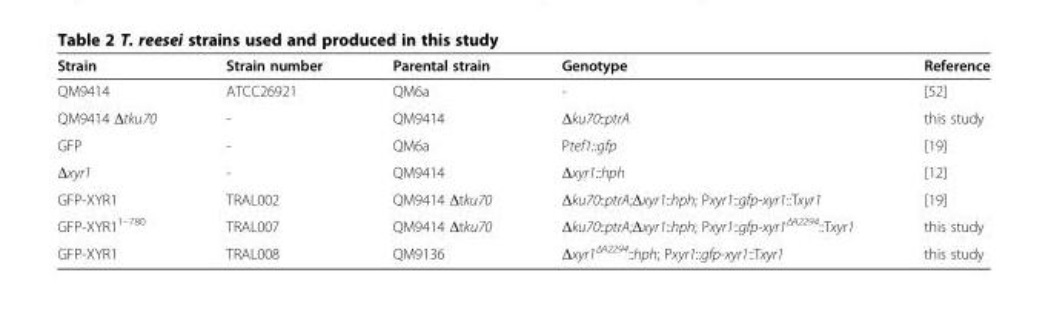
<table><thead><tr><td>Strain</td><td>Strain number</td><td>Parental strain</td><td>Genotype</td><td>Reference</td></tr></thead><tbody><tr><td>QM9414</td><td>ATCC26921</td><td>QM6a</td><td>-</td><td>[52]</td></tr><tr><td>QM9414 Δtku70</td><td>-</td><td>QM9414</td><td>Δku70::ptrA</td><td>this study</td></tr><tr><td>GFP</td><td>-</td><td>QM6a</td><td>Ptef1::gfp</td><td>[19]</td></tr><tr><td>Δxyr1</td><td>-</td><td>QM9414</td><td>Δxyr1::hph</td><td>[12]</td></tr><tr><td>GFP-XYR1</td><td>TRAL002</td><td>QM9414 Δtku70</td><td>Δku70::ptrA;Δxyr1::hph; Pxyr1::gfp-xyr1::Txyr1</td><td>[19]</td></tr><tr><td>GFP-XYR1<sup>1–780</sup></td><td>TRAL007</td><td>QM9414 Δtku70</td><td>Δku70::ptrA;Δxyr1::hph; Pxyr1::gfp-xyr1ΔA2294::Txyr1</td><td>this study</td></tr><tr><td>GFP-XYR1</td><td>TRAL008</td><td>QM9136</td><td>Δxyr1ΔA2294::hph; Pxyr1::gfp-xyr1::Txyr1</td><td>this study</td></tr></tbody></table>